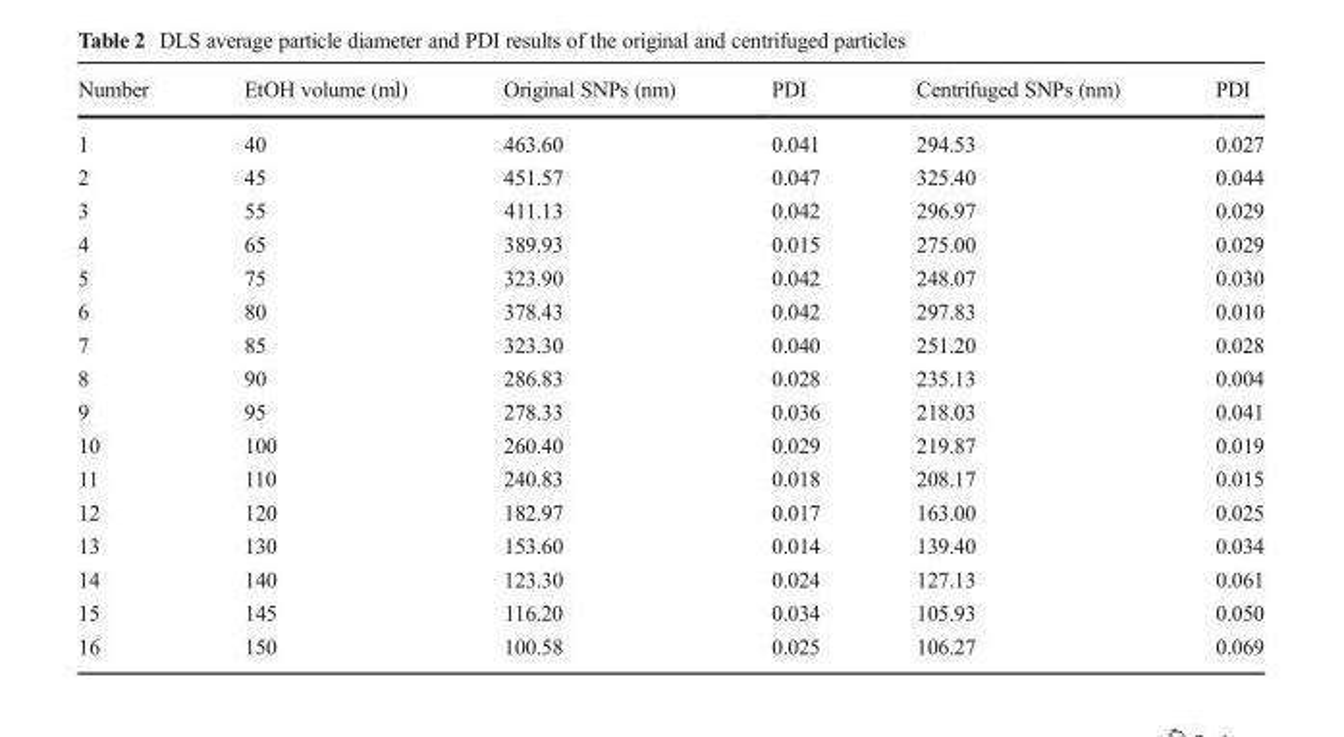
<table><thead><tr><td>Number</td><td>EtOH volume (ml)</td><td>Original SNPs (nm)</td><td>PDI</td><td>Centrifuged SNPs (nm)</td><td>PDI</td></tr></thead><tbody><tr><td>1</td><td>40</td><td>463.60</td><td>0.041</td><td>294.53</td><td>0.027</td></tr><tr><td>2</td><td>45</td><td>451.57</td><td>0.047</td><td>325.40</td><td>0.044</td></tr><tr><td>3</td><td>55</td><td>411.13</td><td>0.042</td><td>296.97</td><td>0.029</td></tr><tr><td>4</td><td>65</td><td>389.93</td><td>0.015</td><td>275.00</td><td>0.029</td></tr><tr><td>5</td><td>75</td><td>323.90</td><td>0.042</td><td>248.07</td><td>0.030</td></tr><tr><td>6</td><td>80</td><td>378.43</td><td>0.042</td><td>297.83</td><td>0.010</td></tr><tr><td>7</td><td>85</td><td>323.30</td><td>0.040</td><td>251.20</td><td>0.028</td></tr><tr><td>8</td><td>90</td><td>286.83</td><td>0.028</td><td>235.13</td><td>0.004</td></tr><tr><td>9</td><td>95</td><td>278.33</td><td>0.036</td><td>218.03</td><td>0.041</td></tr><tr><td>10</td><td>100</td><td>260.40</td><td>0.029</td><td>219.87</td><td>0.019</td></tr><tr><td>11</td><td>110</td><td>240.83</td><td>0.018</td><td>208.17</td><td>0.015</td></tr><tr><td>12</td><td>120</td><td>182.97</td><td>0.017</td><td>163.00</td><td>0.025</td></tr><tr><td>13</td><td>130</td><td>153.60</td><td>0.014</td><td>139.40</td><td>0.034</td></tr><tr><td>14</td><td>140</td><td>123.30</td><td>0.024</td><td>127.13</td><td>0.061</td></tr><tr><td>15</td><td>145</td><td>116.20</td><td>0.034</td><td>105.93</td><td>0.050</td></tr><tr><td>16</td><td>150</td><td>100.58</td><td>0.025</td><td>106.27</td><td>0.069</td></tr></tbody></table>